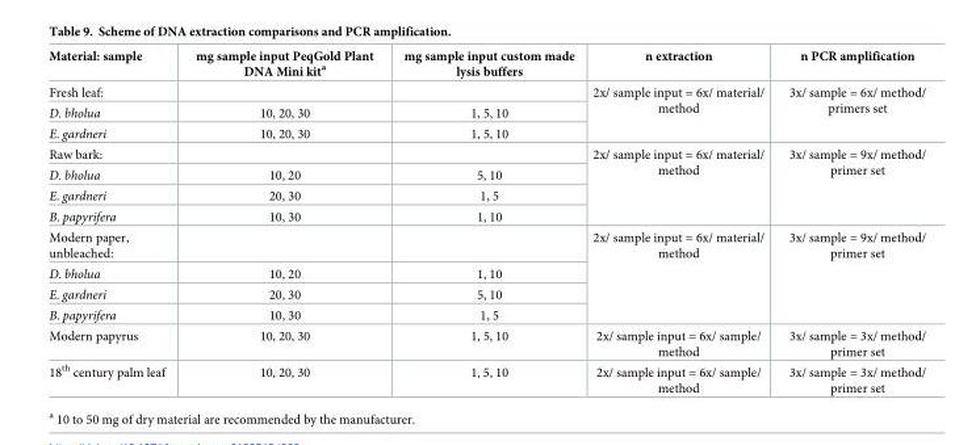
<table><thead><tr><td>Material: sample</td><td>mg sample input PeqGold Plant DNA Mini kit<sup>a</sup></td><td>mg sample input custom made lysis buffers</td><td>n extraction</td><td>n PCR amplification</td></tr></thead><tbody><tr><td colspan="3">Fresh leaf:</td><td rowspan="3">2x/ sample input = 6x/ material/ method</td><td rowspan="3">3x/ sample = 6x/ method/ primers set</td></tr><tr><td>D. bholua</td><td>10, 20, 30</td><td>1, 5, 10</td></tr><tr><td>E. gardneri</td><td>10, 20, 30</td><td>1, 5, 10</td></tr><tr><td colspan="3">Raw bark:</td><td rowspan="4">2x/ sample input = 6x/ material/ method</td><td rowspan="4">3x/ sample = 9x/ method/ primer set</td></tr><tr><td>D. bholua</td><td>10, 20</td><td>5, 10</td></tr><tr><td>E. gardneri</td><td>20, 30</td><td>1, 5</td></tr><tr><td>B. papyrifera</td><td>10, 30</td><td>1, 10</td></tr><tr><td colspan="3">Modern paper, unbleached:</td><td rowspan="4">2x/ sample input = 6x/ material/ method</td><td rowspan="4">3x/ sample = 9x/ method/ primer set</td></tr><tr><td>D. bholua</td><td>10, 20</td><td>1, 10</td></tr><tr><td>E. gardneri</td><td>20, 30</td><td>5, 10</td></tr><tr><td>B. papyrifera</td><td>10, 30</td><td>1, 5</td></tr><tr><td>Modern papyrus</td><td>10, 20, 30</td><td>1, 5, 10</td><td>2x/ sample input = 6x/ sample/ method</td><td>3x/ sample = 3x/ method/ primer set</td></tr><tr><td>18<sup>th</sup> century palm leaf</td><td>10, 20, 30</td><td>1, 5, 10</td><td>2x/ sample input = 6x/ sample/ method</td><td>3x/ sample = 3x/ method/ primer set</td></tr></tbody></table>